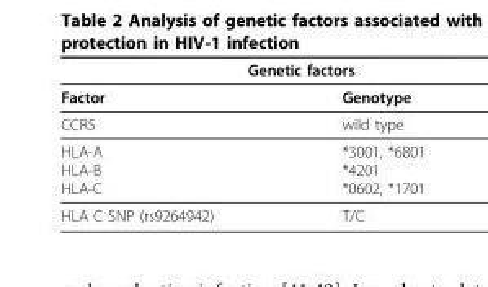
<table><thead><tr><td colspan="2">Genetic factors</td></tr><tr><td>Factor</td><td>Genotype</td></tr></thead><tbody><tr><td>CCR5</td><td>wild type</td></tr><tr><td>HLA-A HLA-B HLA-C</td><td>*3001, *6801 *4201 *0602, *1701</td></tr><tr><td>HLA C SNP (rs9264942)</td><td>T/C</td></tr></tbody></table>